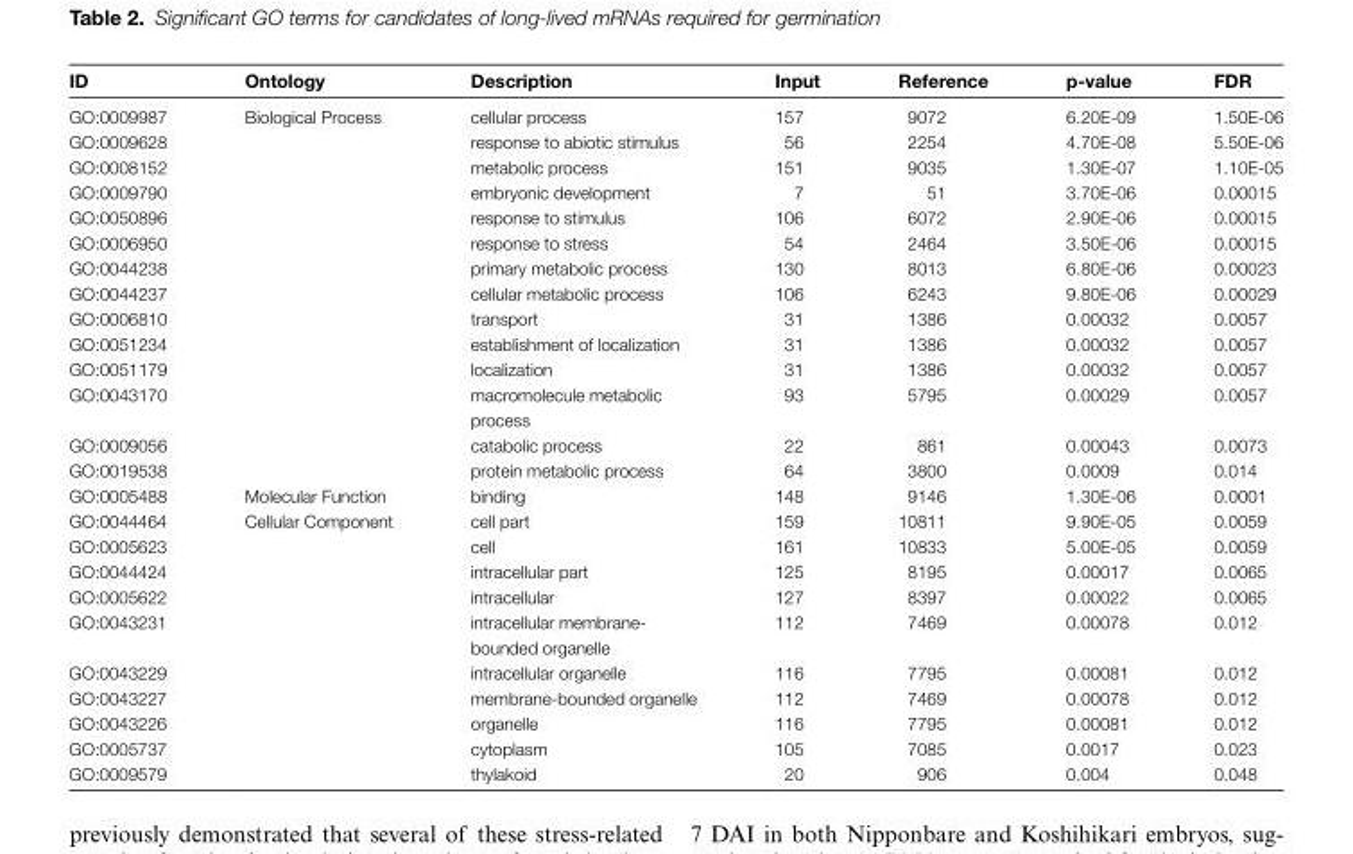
<table><thead><tr><td>ID</td><td>Ontology</td><td>Description</td><td>Input</td><td>Reference</td><td>p-value</td><td>FDR</td></tr></thead><tbody><tr><td>GO:0009987</td><td rowspan="14">Biological Process</td><td>cellular process</td><td>157</td><td>9072</td><td>6.20E-09</td><td>1.50E-06</td></tr><tr><td>GO:0009628</td><td>response to abiotic stimulus</td><td>56</td><td>2254</td><td>4.70E-08</td><td>5.50E-06</td></tr><tr><td>GO:0008152</td><td>metabolic process</td><td>151</td><td>9035</td><td>1.30E-07</td><td>1.10E-05</td></tr><tr><td>GO:0009790</td><td>embryonic development</td><td>7</td><td>51</td><td>3.70E-06</td><td>0.00015</td></tr><tr><td>GO:0050896</td><td>response to stimulus</td><td>106</td><td>6072</td><td>2.90E-06</td><td>0.00015</td></tr><tr><td>GO:0006950</td><td>response to stress</td><td>54</td><td>2464</td><td>3.50E-06</td><td>0.00015</td></tr><tr><td>GO:0044238</td><td>primary metabolic process</td><td>130</td><td>8013</td><td>6.80E-06</td><td>0.00023</td></tr><tr><td>GO:0044237</td><td>cellular metabolic process</td><td>106</td><td>6243</td><td>9.80E-06</td><td>0.00029</td></tr><tr><td>GO:0006810</td><td>transport</td><td>31</td><td>1386</td><td>0.00032</td><td>0.0057</td></tr><tr><td>GO:0051234</td><td>establishment of localization</td><td>31</td><td>1386</td><td>0.00032</td><td>0.0057</td></tr><tr><td>GO:0051179</td><td>localization</td><td>31</td><td>1386</td><td>0.00032</td><td>0.0057</td></tr><tr><td>GO:0043170</td><td>macromolecule metabolic process</td><td>93</td><td>5795</td><td>0.00029</td><td>0.0057</td></tr><tr><td>GO:0009056</td><td>catabolic process</td><td>22</td><td>861</td><td>0.00043</td><td>0.0073</td></tr><tr><td>GO:0019538</td><td>protein metabolic process</td><td>64</td><td>3800</td><td>0.0009</td><td>0.014</td></tr><tr><td>GO:0005488</td><td>Molecular Function</td><td>binding</td><td>148</td><td>9146</td><td>1.30E-06</td><td>0.0001</td></tr><tr><td>GO:0044464</td><td rowspan="10">Cellular Component</td><td>cell part</td><td>159</td><td>10811</td><td>9.90E-05</td><td>0.0059</td></tr><tr><td>GO:0005623</td><td>cell</td><td>161</td><td>10833</td><td>5.00E-05</td><td>0.0059</td></tr><tr><td>GO:0044424</td><td>intracellular part</td><td>125</td><td>8195</td><td>0.00017</td><td>0.0065</td></tr><tr><td>GO:0005622</td><td>intracellular</td><td>127</td><td>8397</td><td>0.00022</td><td>0.0065</td></tr><tr><td>GO:0043231</td><td>intracellular membrane- bounded organelle</td><td>112</td><td>7469</td><td>0.00078</td><td>0.012</td></tr><tr><td>GO:0043229</td><td>intracellular organelle</td><td>116</td><td>7795</td><td>0.00081</td><td>0.012</td></tr><tr><td>GO:0043227</td><td>membrane-bounded organelle</td><td>112</td><td>7469</td><td>0.00078</td><td>0.012</td></tr><tr><td>GO:0043226</td><td>organelle</td><td>116</td><td>7795</td><td>0.00081</td><td>0.012</td></tr><tr><td>GO:0005737</td><td>cytoplasm</td><td>105</td><td>7085</td><td>0.0017</td><td>0.023</td></tr><tr><td>GO:0009579</td><td>thylakoid</td><td>20</td><td>906</td><td>0.004</td><td>0.048</td></tr></tbody></table>